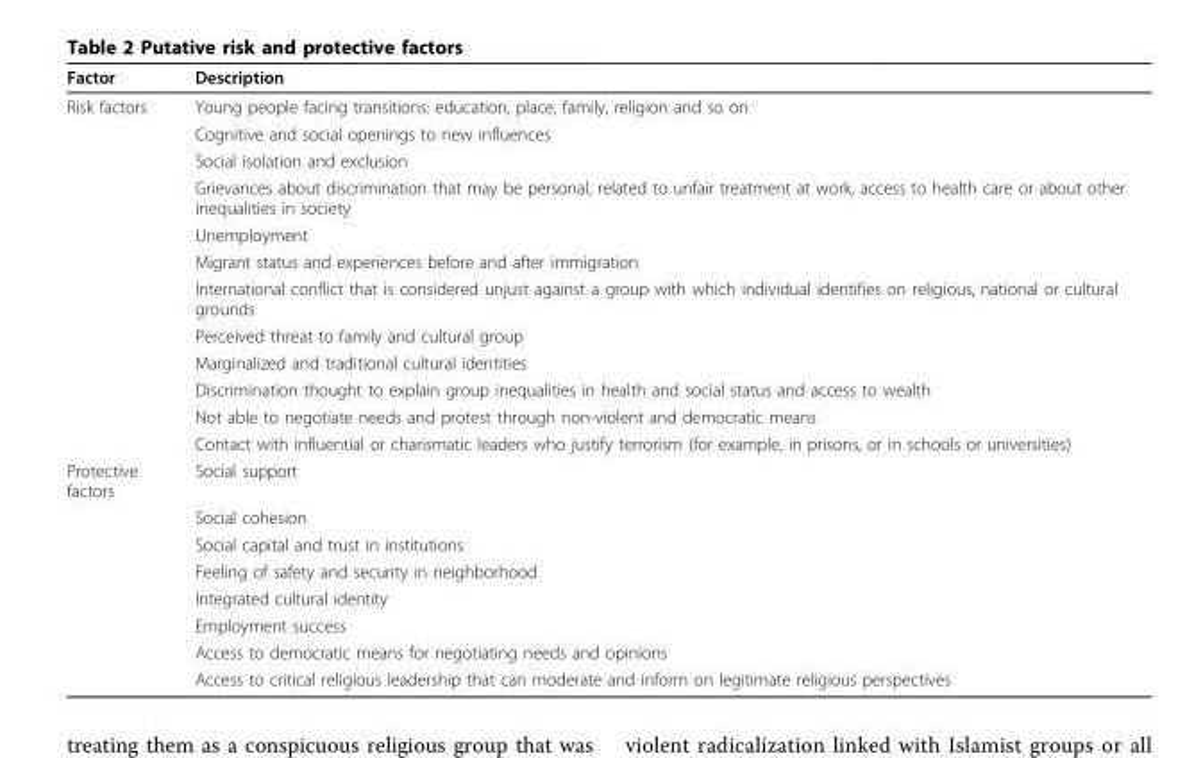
<table><thead><tr><td>Factor</td><td>Description</td></tr></thead><tbody><tr><td rowspan="12">Risk factors</td><td>Young people facing transitions: education, place, family, religion and so on</td></tr><tr><td>Cognitive and social openings to new influences</td></tr><tr><td>Social isolation and exclusion</td></tr><tr><td>Grievances about discrimination that may be personal, related to unfair treatment at work, access to health care or about other inequalities in society</td></tr><tr><td>Unemployment</td></tr><tr><td>Migrant status and experiences before and after immigration</td></tr><tr><td>International conflict that is considered unjust against a group with which individual identifies on religious, national or cultural grounds</td></tr><tr><td>Perceived threat to family and cultural group</td></tr><tr><td>Marginalized and traditional cultural identities</td></tr><tr><td>Discrimination thought to explain group inequalities in health and social status and access to wealth</td></tr><tr><td>Not able to negotiate needs and protest through non-violent and democratic means</td></tr><tr><td>Contact with influential or charismatic leaders who justify terrorism (for example, in prisons, or in schools or universities)</td></tr><tr><td rowspan="8">Protective factors</td><td>Social support</td></tr><tr><td>Social cohesion</td></tr><tr><td>Social capital and trust in institutions</td></tr><tr><td>Feeling of safety and security in neighborhood</td></tr><tr><td>Integrated cultural identity</td></tr><tr><td>Employment success</td></tr><tr><td>Access to democratic means for negotiating needs and opinions</td></tr><tr><td>Access to critical religious leadership that can moderate and inform on legitimate religious perspectives</td></tr></tbody></table>